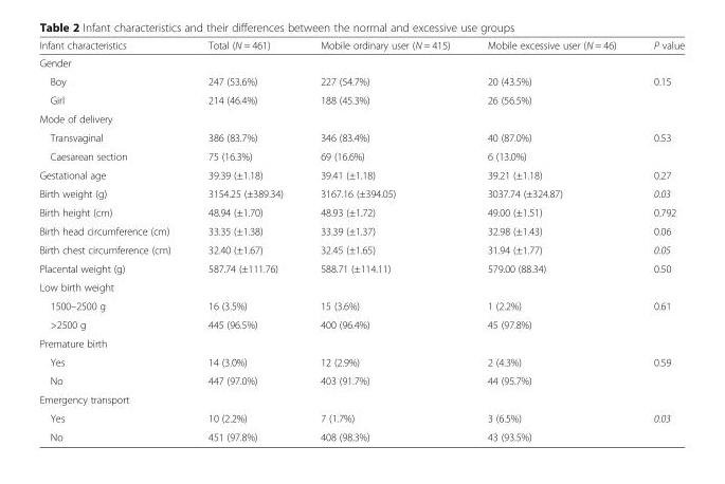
<table><thead><tr><td>Infant characteristics</td><td>Total (N = 461)</td><td>Mobile ordinary user (N = 415)</td><td>Mobile excessive user (N = 46)</td><td>P value</td></tr></thead><tbody><tr><td colspan="5">Gender</td></tr><tr><td>Boy</td><td>247 (53.6%)</td><td>227 (54.7%)</td><td>20 (43.5%)</td><td>0.15</td></tr><tr><td>Girl</td><td>214 (46.4%)</td><td>188 (45.3%)</td><td>26 (56.5%)</td><td></td></tr><tr><td colspan="5">Mode of delivery</td></tr><tr><td>Transvaginal</td><td>386 (83.7%)</td><td>346 (83.4%)</td><td>40 (87.0%)</td><td>0.53</td></tr><tr><td>Caesarean section</td><td>75 (16.3%)</td><td>69 (16.6%)</td><td>6 (13.0%)</td><td></td></tr><tr><td>Gestational age</td><td>39.39 (±1.18)</td><td>39.41 (±1.18)</td><td>39.21 (±1.18)</td><td>0.27</td></tr><tr><td>Birth weight (g)</td><td>3154.25 (±389.34)</td><td>3167.16 (±394.05)</td><td>3037.74 (±324.87)</td><td>0.03</td></tr><tr><td>Birth height (cm)</td><td>48.94 (±1.70)</td><td>48.93 (±1.72)</td><td>49.00 (±1.51)</td><td>0.792</td></tr><tr><td>Birth head circumference (cm)</td><td>33.35 (±1.38)</td><td>33.39 (±1.37)</td><td>32.98 (±1.43)</td><td>0.06</td></tr><tr><td>Birth chest circumference (cm)</td><td>32.40 (±1.67)</td><td>32.45 (±1.65)</td><td>31.94 (±1.77)</td><td>0.05</td></tr><tr><td>Placental weight (g)</td><td>587.74 (±111.76)</td><td>588.71 (±114.11)</td><td>579.00 (88.34)</td><td>0.50</td></tr><tr><td colspan="5">Low birth weight</td></tr><tr><td>1500–2500 g</td><td>16 (3.5%)</td><td>15 (3.6%)</td><td>1 (2.2%)</td><td>0.61</td></tr><tr><td>&gt;2500 g</td><td>445 (96.5%)</td><td>400 (96.4%)</td><td>45 (97.8%)</td><td></td></tr><tr><td colspan="5">Premature birth</td></tr><tr><td>Yes</td><td>14 (3.0%)</td><td>12 (2.9%)</td><td>2 (4.3%)</td><td>0.59</td></tr><tr><td>No</td><td>447 (97.0%)</td><td>403 (91.7%)</td><td>44 (95.7%)</td><td></td></tr><tr><td colspan="5">Emergency transport</td></tr><tr><td>Yes</td><td>10 (2.2%)</td><td>7 (1.7%)</td><td>3 (6.5%)</td><td>0.03</td></tr><tr><td>No</td><td>451 (97.8%)</td><td>408 (98.3%)</td><td>43 (93.5%)</td><td></td></tr></tbody></table>